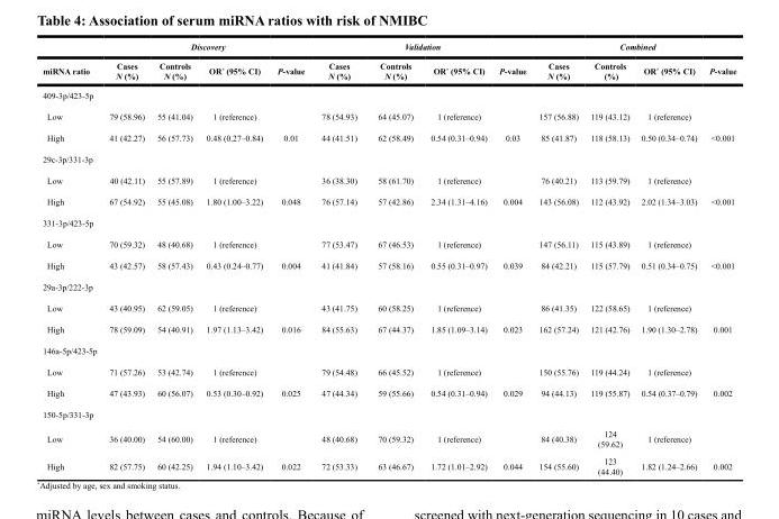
<table><thead><tr><td rowspan="2">miRNA ratio</td><td colspan="4">Discovery</td><td colspan="4">Validation</td><td colspan="4">Combined</td></tr><tr><td>Cases N (%)</td><td>Controls N (%)</td><td>OR* (95% CI)</td><td>P-value</td><td>Cases N (%)</td><td>Controls N (%)</td><td>OR* (95% CI)</td><td>P-value</td><td>Cases N (%)</td><td>Controls (%)</td><td>OR* (95% CI)</td><td>P-value</td></tr></thead><tbody><tr><td colspan="13">409-3p/423-5p</td></tr><tr><td>Low</td><td>79 (58.96)</td><td>55 (41.04)</td><td>1 (reference)</td><td></td><td>78 (54.93)</td><td>64 (45.07)</td><td>1 (reference)</td><td></td><td>157 (56.88)</td><td>119 (43.12)</td><td>1 (reference)</td><td></td></tr><tr><td>High</td><td>41 (42.27)</td><td>56 (57.73)</td><td>0.48 (0.27–0.84)</td><td>0.01</td><td>44 (41.51)</td><td>62 (58.49)</td><td>0.54 (0.31–0.94)</td><td>0.03</td><td>85 (41.87)</td><td>118 (58.13)</td><td>0.50 (0.34–0.74)</td><td>&lt;0.001</td></tr><tr><td colspan="13">29c-3p/331-3p</td></tr><tr><td>Low</td><td>40 (42.11)</td><td>55 (57.89)</td><td>1 (reference)</td><td></td><td>36 (38.30)</td><td>58 (61.70)</td><td>1 (reference)</td><td></td><td>76 (40.21)</td><td>113 (59.79)</td><td>1 (reference)</td><td></td></tr><tr><td>High</td><td>67 (54.92)</td><td>55 (45.08)</td><td>1.80 (1.00–3.22)</td><td>0.048</td><td>76 (57.14)</td><td>57 (42.86)</td><td>2.34 (1.31–4.16)</td><td>0.004</td><td>143 (56.08)</td><td>112 (43.92)</td><td>2.02 (1.34–3.03)</td><td>&lt;0.001</td></tr><tr><td colspan="13">331-3p/423-5p</td></tr><tr><td>Low</td><td>70 (59.32)</td><td>48 (40.68)</td><td>1 (reference)</td><td></td><td>77 (53.47)</td><td>67 (46.53)</td><td>1 (reference)</td><td></td><td>147 (56.11)</td><td>115 (43.89)</td><td>1 (reference)</td><td></td></tr><tr><td>High</td><td>43 (42.57)</td><td>58 (57.43)</td><td>0.43 (0.24–0.77)</td><td>0.004</td><td>41 (41.84)</td><td>57 (58.16)</td><td>0.55 (0.31–0.97)</td><td>0.039</td><td>84 (42.21)</td><td>115 (57.79)</td><td>0.51 (0.34–0.75)</td><td>&lt;0.001</td></tr><tr><td colspan="13">29a-3p/222-3p</td></tr><tr><td>Low</td><td>43 (40.95)</td><td>62 (59.05)</td><td>1 (reference)</td><td></td><td>43 (41.75)</td><td>60 (58.25)</td><td>1 (reference)</td><td></td><td>86 (41.35)</td><td>122 (58.65)</td><td>1 (reference)</td><td></td></tr><tr><td>High</td><td>78 (59.09)</td><td>54 (40.91)</td><td>1.97 (1.13–3.42)</td><td>0.016</td><td>84 (55.63)</td><td>67 (44.37)</td><td>1.85 (1.09–3.14)</td><td>0.023</td><td>162 (57.24)</td><td>121 (42.76)</td><td>1.90 (1.30–2.78)</td><td>0.001</td></tr><tr><td colspan="13">146a-5p/423-5p</td></tr><tr><td>Low</td><td>71 (57.26)</td><td>53 (42.74)</td><td>1 (reference)</td><td></td><td>79 (54.48)</td><td>66 (45.52)</td><td>1 (reference)</td><td></td><td>150 (55.76)</td><td>119 (44.24)</td><td>1 (reference)</td><td></td></tr><tr><td>High</td><td>47 (43.93)</td><td>60 (56.07)</td><td>0.53 (0.30–0.92)</td><td>0.025</td><td>47 (44.34)</td><td>59 (55.66)</td><td>0.54 (0.31–0.94)</td><td>0.029</td><td>94 (44.13)</td><td>119 (55.87)</td><td>0.54 (0.37–0.79)</td><td>0.002</td></tr><tr><td colspan="13">150-5p/331-3p</td></tr><tr><td>Low</td><td>36 (40.00)</td><td>54 (60.00)</td><td>1 (reference)</td><td></td><td>48 (40.68)</td><td>70 (59.32)</td><td>1 (reference)</td><td></td><td>84 (40.38)</td><td>124 (59.62)</td><td>1 (reference)</td><td></td></tr><tr><td>High</td><td>82 (57.75)</td><td>60 (42.25)</td><td>1.94 (1.10–3.42)</td><td>0.022</td><td>72 (53.33)</td><td>63 (46.67)</td><td>1.72 (1.01–2.92)</td><td>0.044</td><td>154 (55.60)</td><td>123 (44.40)</td><td>1.82 (1.24–2.66)</td><td>0.002</td></tr></tbody></table>